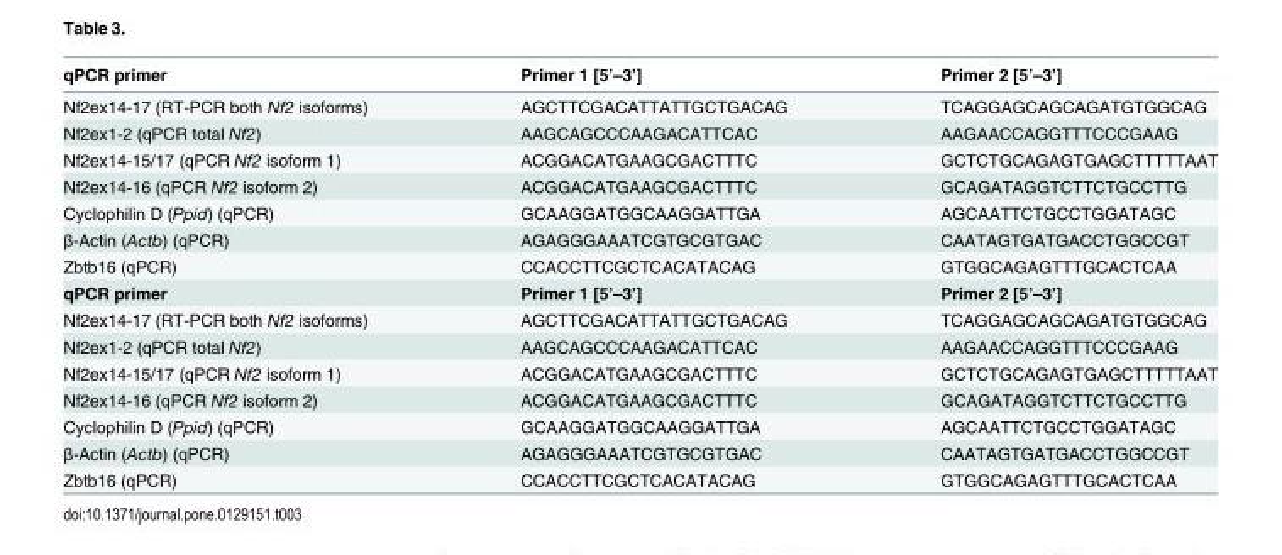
<table><thead><tr><td>qPCR primer</td><td>Primer 1 [5’–3’]</td><td>Primer 2 [5’–3’]</td></tr></thead><tbody><tr><td>Nf2ex14-17 (RT-PCR both Nf2 isoforms)</td><td>AGCTTCGACATTATTGCTGACAG</td><td>TCAGGAGCAGCAGATGTGGCAG</td></tr><tr><td>Nf2ex1-2 (qPCR total Nf2)</td><td>AAGCAGCCCAAGACATTCAC</td><td>AAGAACCAGGTTTCCCGAAG</td></tr><tr><td>Nf2ex14-15/17 (qPCR Nf2 isoform 1)</td><td>ACGGACATGAAGCGACTTTC</td><td>GCTCTGCAGAGTGAGCTTTTTAAT</td></tr><tr><td>Nf2ex14-16 (qPCR Nf2 isoform 2)</td><td>ACGGACATGAAGCGACTTTC</td><td>GCAGATAGGTCTTCTGCCTTG</td></tr><tr><td>Cyclophilin D (Ppid) (qPCR)</td><td>GCAAGGATGGCAAGGATTGA</td><td>AGCAATTCTGCCTGGATAGC</td></tr><tr><td>β-Actin (Actb) (qPCR)</td><td>AGAGGGAAATCGTGCGTGAC</td><td>CAATAGTGATGACCTGGCCGT</td></tr><tr><td>Zbtb16 (qPCR)</td><td>CCACCTTCGCTCACATACAG</td><td>GTGGCAGAGTTTGCACTCAA</td></tr><tr><td>qPCR primer</td><td>Primer 1 [5’–3’]</td><td>Primer 2 [5’–3’]</td></tr><tr><td>Nf2ex14-17 (RT-PCR both Nf2 isoforms)</td><td>AGCTTCGACATTATTGCTGACAG</td><td>TCAGGAGCAGCAGATGTGGCAG</td></tr><tr><td>Nf2ex1-2 (qPCR total Nf2)</td><td>AAGCAGCCCAAGACATTCAC</td><td>AAGAACCAGGTTTCCCGAAG</td></tr><tr><td>Nf2ex14-15/17 (qPCR Nf2 isoform 1)</td><td>ACGGACATGAAGCGACTTTC</td><td>GCTCTGCAGAGTGAGCTTTTTAAT</td></tr><tr><td>Nf2ex14-16 (qPCR Nf2 isoform 2)</td><td>ACGGACATGAAGCGACTTTC</td><td>GCAGATAGGTCTTCTGCCTTG</td></tr><tr><td>Cyclophilin D (Ppid) (qPCR)</td><td>GCAAGGATGGCAAGGATTGA</td><td>AGCAATTCTGCCTGGATAGC</td></tr><tr><td>β-Actin (Actb) (qPCR)</td><td>AGAGGGAAATCGTGCGTGAC</td><td>CAATAGTGATGACCTGGCCGT</td></tr><tr><td>Zbtb16 (qPCR)</td><td>CCACCTTCGCTCACATACAG</td><td>GTGGCAGAGTTTGCACTCAA</td></tr></tbody></table>